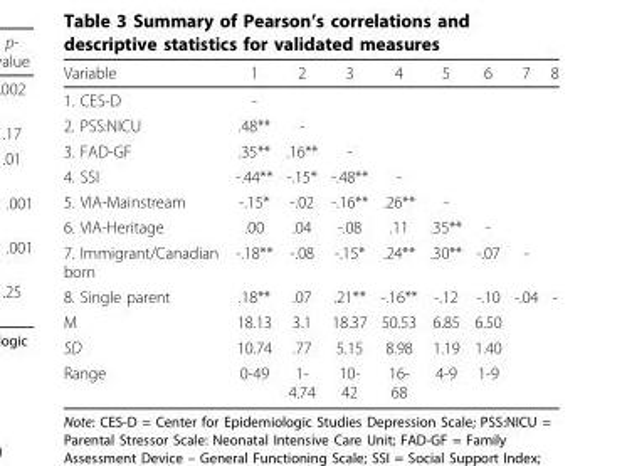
<table><thead><tr><td>Variable</td><td>1</td><td>2</td><td>3</td><td>4</td><td>5</td><td>6</td><td>7</td><td>8</td></tr></thead><tbody><tr><td>1. CES-D</td><td>-</td><td></td><td></td><td></td><td></td><td></td><td></td><td></td></tr><tr><td>2. PSS:NICU</td><td>.48**</td><td>-</td><td></td><td></td><td></td><td></td><td></td><td></td></tr><tr><td>3. FAD-GF</td><td>.35**</td><td>.16**</td><td>-</td><td></td><td></td><td></td><td></td><td></td></tr><tr><td>4. SSI</td><td>-.44**</td><td>-.15*</td><td>-.48**</td><td>-</td><td></td><td></td><td></td><td></td></tr><tr><td>5. VIA-Mainstream</td><td>-.15*</td><td>-.02</td><td>-.16**</td><td>.26**</td><td>-</td><td></td><td></td><td></td></tr><tr><td>6. VIA-Heritage</td><td>.00</td><td>.04</td><td>-.08</td><td>.11</td><td>.35**</td><td>-</td><td></td><td></td></tr><tr><td>7. Immigrant/Canadian born</td><td>-.18**</td><td>-.08</td><td>-.15*</td><td>.24**</td><td>.30**</td><td>-.07</td><td>-</td><td></td></tr><tr><td>8. Single parent</td><td>.18**</td><td>.07</td><td>.21**</td><td>-.16**</td><td>-.12</td><td>-.10</td><td>-.04</td><td>-</td></tr><tr><td>M</td><td>18.13</td><td>3.1</td><td>18.37</td><td>50.53</td><td>6.85</td><td>6.50</td><td></td><td></td></tr><tr><td>SD</td><td>10.74</td><td>.77</td><td>5.15</td><td>8.98</td><td>1.19</td><td>1.40</td><td></td><td></td></tr><tr><td>Range</td><td>0-49</td><td>1- 4.74</td><td>10- 42</td><td>16- 68</td><td>4-9</td><td>1-9</td><td></td><td></td></tr></tbody></table>